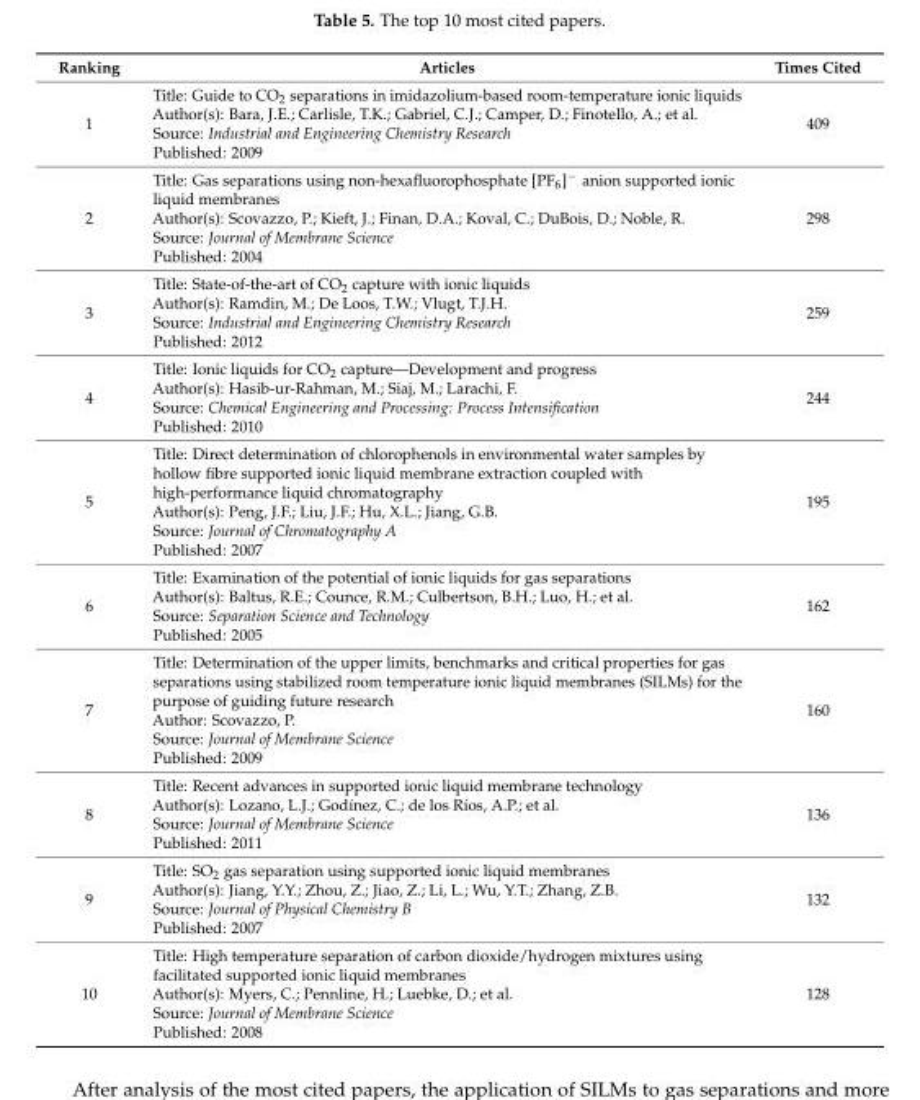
<table><thead><tr><td>Ranking</td><td>Articles</td><td>Times Cited</td></tr></thead><tbody><tr><td>1</td><td>Title: Guide to CO<sub>2</sub> separations in imidazolium-based room-temperature ionic liquids Author(s): Bara, J.E.; Carlisle, T.K.; Gabriel, C.J.; Camper, D.; Finotello, A.; et al. Source: Industrial and Engineering Chemistry Research Published: 2009</td><td>409</td></tr><tr><td>2</td><td>Title: Gas separations using non-hexafluorophosphate [PF<sub>6</sub>]<sup>−</sup> anion supported ionic liquid membranes Author(s): Scovazzo, P.; Kieft, J.; Finan, D.A.; Koval, C.; DuBois, D.; Noble, R. Source: Journal of Membrane Science Published: 2004</td><td>298</td></tr><tr><td>3</td><td>Title: State-of-the-art of CO<sub>2</sub> capture with ionic liquids Author(s): Ramdin, M.; De Loos, T.W.; Vlugt, T.J.H. Source: Industrial and Engineering Chemistry Research Published: 2012</td><td>259</td></tr><tr><td>4</td><td>Title: Ionic liquids for CO<sub>2</sub> capture—Development and progress Author(s): Hasib-ur-Rahman, M.; Siaj, M.; Larachi, F. Source: Chemical Engineering and Processing: Process Intensification Published: 2010</td><td>244</td></tr><tr><td>5</td><td>Title: Direct determination of chlorophenols in environmental water samples by hollow fibre supported ionic liquid membrane extraction coupled with high-performance liquid chromatography Author(s): Peng, J.F.; Liu, J.F.; Hu, X.L.; Jiang, G.B. Source: Journal of Chromatography A Published: 2007</td><td>195</td></tr><tr><td>6</td><td>Title: Examination of the potential of ionic liquids for gas separations Author(s): Baltus, R.E.; Counce, R.M.; Culbertson, B.H.; Luo, H.; et al. Source: Separation Science and Technology Published: 2005</td><td>162</td></tr><tr><td>7</td><td>Title: Determination of the upper limits, benchmarks and critical properties for gas separations using stabilized room temperature ionic liquid membranes (SILMs) for the purpose of guiding future research Author: Scovazzo, P. Source: Journal of Membrane Science Published: 2009</td><td>160</td></tr><tr><td>8</td><td>Title: Recent advances in supported ionic liquid membrane technology Author(s): Lozano, L.J.; Godínez, C.; de los Ríos, A.P.; et al. Source: Journal of Membrane Science Published: 2011</td><td>136</td></tr><tr><td>9</td><td>Title: SO<sub>2</sub> gas separation using supported ionic liquid membranes Author(s): Jiang, Y.Y.; Zhou, Z.; Jiao, Z.; Li, L.; Wu, Y.T.; Zhang, Z.B. Source: Journal of Physical Chemistry B Published: 2007</td><td>132</td></tr><tr><td>10</td><td>Title: High temperature separation of carbon dioxide/hydrogen mixtures using facilitated supported ionic liquid membranes Author(s): Myers, C.; Pennline, H.; Luebke, D.; et al. Source: Journal of Membrane Science Published: 2008</td><td>128</td></tr></tbody></table>